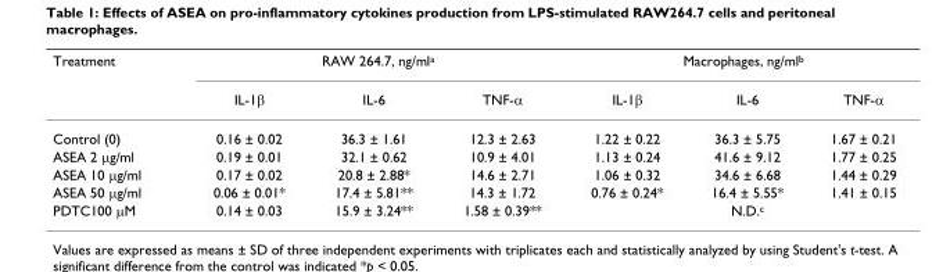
<table><thead><tr><td rowspan="2">Treatment</td><td colspan="3">RAW 264.7, ng/ml<sup>a</sup></td><td colspan="3">Macrophages, ng/ml<sup>b</sup></td></tr><tr><td>IL-1β</td><td>IL-6</td><td>TNF-α</td><td>IL-1β</td><td>IL-6</td><td>TNF-α</td></tr></thead><tbody><tr><td>Control (0)</td><td>0.16 ± 0.02</td><td>36.3 ± 1.61</td><td>12.3 ± 2.63</td><td>1.22 ± 0.22</td><td>36.3 ± 5.75</td><td>1.67 ± 0.21</td></tr><tr><td>ASEA 2 μg/ml</td><td>0.19 ± 0.01</td><td>32.1 ± 0.62</td><td>10.9 ± 4.01</td><td>1.13 ± 0.24</td><td>41.6 ± 9.12</td><td>1.77 ± 0.25</td></tr><tr><td>ASEA 10 μg/ml</td><td>0.17 ± 0.02</td><td>20.8 ± 2.88*</td><td>14.6 ± 2.71</td><td>1.06 ± 0.32</td><td>34.6 ± 6.68</td><td>1.44 ± 0.29</td></tr><tr><td>ASEA 50 μg/ml</td><td>0.06 ± 0.01*</td><td>17.4 ± 5.81**</td><td>14.3 ± 1.72</td><td>0.76 ± 0.24*</td><td>16.4 ± 5.55*</td><td>1.41 ± 0.15</td></tr><tr><td>PDTC100 μM</td><td>0.14 ± 0.03</td><td>15.9 ± 3.24**</td><td>1.58 ± 0.39**</td><td></td><td>N.D.<sup>c</sup></td><td></td></tr></tbody></table>